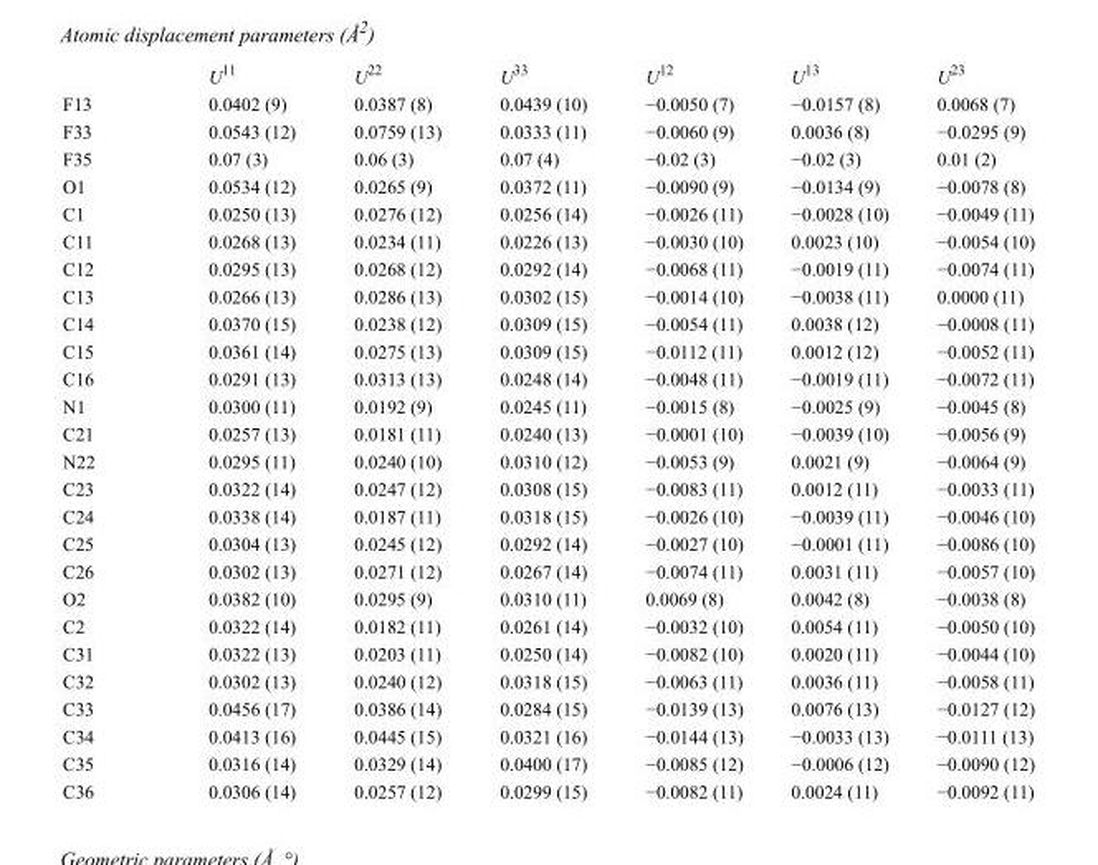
<table><thead><tr><td></td><td>U<sup>11</sup></td><td>U<sup>22</sup></td><td>U<sup>33</sup></td><td>U<sup>12</sup></td><td>U<sup>13</sup></td><td>U<sup>23</sup></td></tr></thead><tbody><tr><td>F13</td><td>0.0402 (9)</td><td>0.0387 (8)</td><td>0.0439 (10)</td><td>−0.0050 (7)</td><td>−0.0157 (8)</td><td>0.0068 (7)</td></tr><tr><td>F33</td><td>0.0543 (12)</td><td>0.0759 (13)</td><td>0.0333 (11)</td><td>−0.0060 (9)</td><td>0.0036 (8)</td><td>−0.0295 (9)</td></tr><tr><td>F35</td><td>0.07 (3)</td><td>0.06 (3)</td><td>0.07 (4)</td><td>−0.02 (3)</td><td>−0.02 (3)</td><td>0.01 (2)</td></tr><tr><td>O1</td><td>0.0534 (12)</td><td>0.0265 (9)</td><td>0.0372 (11)</td><td>−0.0090 (9)</td><td>−0.0134 (9)</td><td>−0.0078 (8)</td></tr><tr><td>C1</td><td>0.0250 (13)</td><td>0.0276 (12)</td><td>0.0256 (14)</td><td>−0.0026 (11)</td><td>−0.0028 (10)</td><td>−0.0049 (11)</td></tr><tr><td>C11</td><td>0.0268 (13)</td><td>0.0234 (11)</td><td>0.0226 (13)</td><td>−0.0030 (10)</td><td>0.0023 (10)</td><td>−0.0054 (10)</td></tr><tr><td>C12</td><td>0.0295 (13)</td><td>0.0268 (12)</td><td>0.0292 (14)</td><td>−0.0068 (11)</td><td>−0.0019 (11)</td><td>−0.0074 (11)</td></tr><tr><td>C13</td><td>0.0266 (13)</td><td>0.0286 (13)</td><td>0.0302 (15)</td><td>−0.0014 (10)</td><td>−0.0038 (11)</td><td>0.0000 (11)</td></tr><tr><td>C14</td><td>0.0370 (15)</td><td>0.0238 (12)</td><td>0.0309 (15)</td><td>−0.0054 (11)</td><td>0.0038 (12)</td><td>−0.0008 (11)</td></tr><tr><td>C15</td><td>0.0361 (14)</td><td>0.0275 (13)</td><td>0.0309 (15)</td><td>−0.0112 (11)</td><td>0.0012 (12)</td><td>−0.0052 (11)</td></tr><tr><td>C16</td><td>0.0291 (13)</td><td>0.0313 (13)</td><td>0.0248 (14)</td><td>−0.0048 (11)</td><td>−0.0019 (11)</td><td>−0.0072 (11)</td></tr><tr><td>N1</td><td>0.0300 (11)</td><td>0.0192 (9)</td><td>0.0245 (11)</td><td>−0.0015 (8)</td><td>−0.0025 (9)</td><td>−0.0045 (8)</td></tr><tr><td>C21</td><td>0.0257 (13)</td><td>0.0181 (11)</td><td>0.0240 (13)</td><td>−0.0001 (10)</td><td>−0.0039 (10)</td><td>−0.0056 (9)</td></tr><tr><td>N22</td><td>0.0295 (11)</td><td>0.0240 (10)</td><td>0.0310 (12)</td><td>−0.0053 (9)</td><td>0.0021 (9)</td><td>−0.0064 (9)</td></tr><tr><td>C23</td><td>0.0322 (14)</td><td>0.0247 (12)</td><td>0.0308 (15)</td><td>−0.0083 (11)</td><td>0.0012 (11)</td><td>−0.0033 (11)</td></tr><tr><td>C24</td><td>0.0338 (14)</td><td>0.0187 (11)</td><td>0.0318 (15)</td><td>−0.0026 (10)</td><td>−0.0039 (11)</td><td>−0.0046 (10)</td></tr><tr><td>C25</td><td>0.0304 (13)</td><td>0.0245 (12)</td><td>0.0292 (14)</td><td>−0.0027 (10)</td><td>−0.0001 (11)</td><td>−0.0086 (10)</td></tr><tr><td>C26</td><td>0.0302 (13)</td><td>0.0271 (12)</td><td>0.0267 (14)</td><td>−0.0074 (11)</td><td>0.0031 (11)</td><td>−0.0057 (10)</td></tr><tr><td>O2</td><td>0.0382 (10)</td><td>0.0295 (9)</td><td>0.0310 (11)</td><td>0.0069 (8)</td><td>0.0042 (8)</td><td>−0.0038 (8)</td></tr><tr><td>C2</td><td>0.0322 (14)</td><td>0.0182 (11)</td><td>0.0261 (14)</td><td>−0.0032 (10)</td><td>0.0054 (11)</td><td>−0.0050 (10)</td></tr><tr><td>C31</td><td>0.0322 (13)</td><td>0.0203 (11)</td><td>0.0250 (14)</td><td>−0.0082 (10)</td><td>0.0020 (11)</td><td>−0.0044 (10)</td></tr><tr><td>C32</td><td>0.0302 (13)</td><td>0.0240 (12)</td><td>0.0318 (15)</td><td>−0.0063 (11)</td><td>0.0036 (11)</td><td>−0.0058 (11)</td></tr><tr><td>C33</td><td>0.0456 (17)</td><td>0.0386 (14)</td><td>0.0284 (15)</td><td>−0.0139 (13)</td><td>0.0076 (13)</td><td>−0.0127 (12)</td></tr><tr><td>C34</td><td>0.0413 (16)</td><td>0.0445 (15)</td><td>0.0321 (16)</td><td>−0.0144 (13)</td><td>−0.0033 (13)</td><td>−0.0111 (13)</td></tr><tr><td>C35</td><td>0.0316 (14)</td><td>0.0329 (14)</td><td>0.0400 (17)</td><td>−0.0085 (12)</td><td>−0.0006 (12)</td><td>−0.0090 (12)</td></tr><tr><td>C36</td><td>0.0306 (14)</td><td>0.0257 (12)</td><td>0.0299 (15)</td><td>−0.0082 (11)</td><td>0.0024 (11)</td><td>−0.0092 (11)</td></tr></tbody></table>